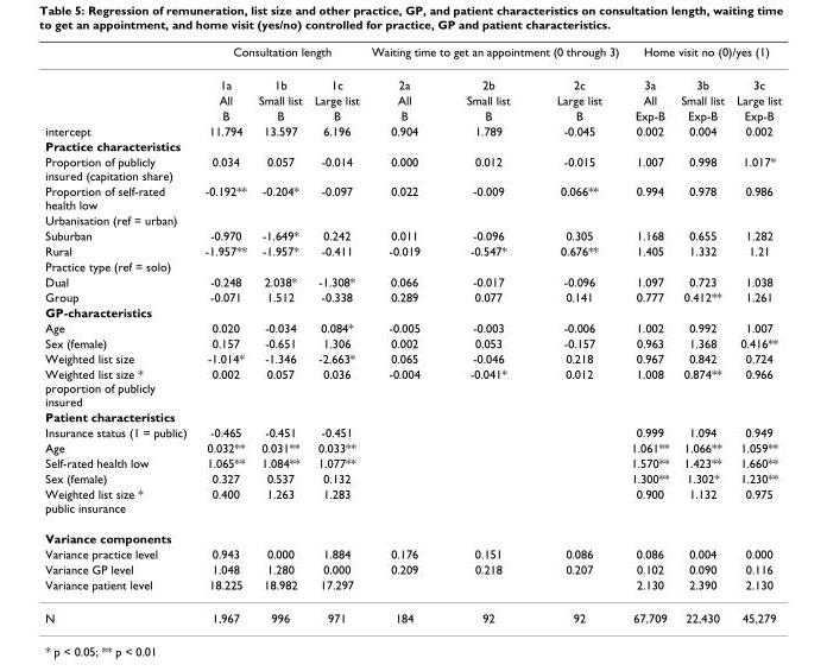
<table><thead><tr><td rowspan="2"></td><td colspan="3">Consultation length</td><td colspan="3">Waiting time to get an appointment (0 through 3)</td><td colspan="3">Home visit no (0)/yes (1)</td></tr><tr><td>1a</td><td>1b</td><td>1c</td><td>2a</td><td>2b</td><td>2c</td><td>3a</td><td>3b</td><td>3c</td></tr></thead><tbody><tr><td></td><td>All</td><td>Small list</td><td>Large list</td><td>All</td><td>Small list</td><td>Large list</td><td>All</td><td>Small list</td><td>Large list</td></tr><tr><td></td><td>B</td><td>B</td><td>B</td><td>B</td><td>B</td><td>B</td><td>Exp-B</td><td>Exp-B</td><td>Exp-B</td></tr><tr><td>intercept</td><td>11.794</td><td>13.597</td><td>6.196</td><td>0.904</td><td>1.789</td><td>-0.045</td><td>0.002</td><td>0.004</td><td>0.002</td></tr><tr><td colspan="10">Practice characteristics</td></tr><tr><td>Proportion of publicly insured (capitation share)</td><td>0.034</td><td>0.057</td><td>-0.014</td><td>0.000</td><td>0.012</td><td>-0.015</td><td>1.007</td><td>0.998</td><td>1.017*</td></tr><tr><td>Proportion of self-rated health low</td><td>-0.192**</td><td>-0.204*</td><td>-0.097</td><td>0.022</td><td>-0.009</td><td>0.066**</td><td>0.994</td><td>0.978</td><td>0.986</td></tr><tr><td colspan="10">Urbanisation (ref = urban)</td></tr><tr><td>Suburban</td><td>-0.970</td><td>-1.649*</td><td>0.242</td><td>0.011</td><td>-0.096</td><td>0.305</td><td>1.168</td><td>0.655</td><td>1.282</td></tr><tr><td>Rural</td><td>-1.957**</td><td>-1.957*</td><td>-0.411</td><td>-0.019</td><td>-0.547*</td><td>0.676**</td><td>1.405</td><td>1.332</td><td>1.21</td></tr><tr><td colspan="10">Practice type (ref = solo)</td></tr><tr><td>Dual</td><td>-0.248</td><td>2.038*</td><td>-1.308*</td><td>0.066</td><td>-0.017</td><td>-0.096</td><td>1.097</td><td>0.723</td><td>1.038</td></tr><tr><td>Group</td><td>-0.071</td><td>1.512</td><td>-0.338</td><td>0.289</td><td>0.077</td><td>0.141</td><td>0.777</td><td>0.412**</td><td>1.261</td></tr><tr><td colspan="10">GP-characteristics</td></tr><tr><td>Age</td><td>0.020</td><td>-0.034</td><td>0.084*</td><td>-0.005</td><td>-0.003</td><td>-0.006</td><td>1.002</td><td>0.992</td><td>1.007</td></tr><tr><td>Sex (female)</td><td>0.157</td><td>-0.651</td><td>1.306</td><td>0.002</td><td>0.053</td><td>-0.157</td><td>0.963</td><td>1.368</td><td>0.416**</td></tr><tr><td>Weighted list size</td><td>-1.014*</td><td>-1.346</td><td>-2.663*</td><td>0.065</td><td>-0.046</td><td>0.218</td><td>0.967</td><td>0.842</td><td>0.724</td></tr><tr><td>Weighted list size * proportion of publicly insured</td><td>0.002</td><td>0.057</td><td>0.036</td><td>-0.004</td><td>-0.041*</td><td>0.012</td><td>1.008</td><td>0.874**</td><td>0.966</td></tr><tr><td colspan="10">Patient characteristics</td></tr><tr><td>Insurance status (1 = public)</td><td>-0.465</td><td>-0.451</td><td>-0.451</td><td></td><td></td><td></td><td>0.999</td><td>1.094</td><td>0.949</td></tr><tr><td>Age</td><td>0.032**</td><td>0.031**</td><td>0.033**</td><td></td><td></td><td></td><td>1.061**</td><td>1.066**</td><td>1.059**</td></tr><tr><td>Self-rated health low</td><td>1.065**</td><td>1.084**</td><td>1.077**</td><td></td><td></td><td></td><td>1.570**</td><td>1.423**</td><td>1.660**</td></tr><tr><td>Sex (female)</td><td>0.327</td><td>0.537</td><td>0.132</td><td></td><td></td><td></td><td>1.300**</td><td>1.302*</td><td>1.230**</td></tr><tr><td>Weighted list size * public insurance</td><td>0.400</td><td>1.263</td><td>1.283</td><td></td><td></td><td></td><td>0.900</td><td>1.132</td><td>0.975</td></tr><tr><td colspan="10">Variance components</td></tr><tr><td>Variance practice level</td><td>0.943</td><td>0.000</td><td>1.884</td><td>0.176</td><td>0.151</td><td>0.086</td><td>0.086</td><td>0.004</td><td>0.000</td></tr><tr><td>Variance GP level</td><td>1.048</td><td>1.280</td><td>0.000</td><td>0.209</td><td>0.218</td><td>0.207</td><td>0.102</td><td>0.090</td><td>0.116</td></tr><tr><td>Variance patient level</td><td>18.225</td><td>18.982</td><td>17.297</td><td></td><td></td><td></td><td>2.130</td><td>2.390</td><td>2.130</td></tr><tr><td>N</td><td>1,967</td><td>996</td><td>971</td><td>184</td><td>92</td><td>92</td><td>67,709</td><td>22,430</td><td>45,279</td></tr></tbody></table>